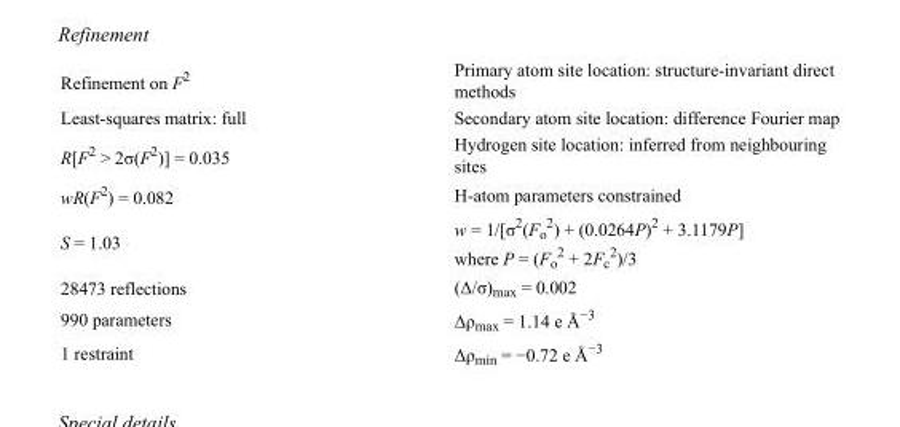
<table><tbody><tr><td>Refinement on F<sup>2</sup></td><td>Primary atom site location: structure-invariant direct methods</td></tr><tr><td>Least-squares matrix: full</td><td>Secondary atom site location: difference Fourier map</td></tr><tr><td>R[F<sup>2</sup> &gt; 2σ(F<sup>2</sup>)] = 0.035</td><td>Hydrogen site location: inferred from neighbouring sites</td></tr><tr><td>wR(F<sup>2</sup>) = 0.082</td><td>H-atom parameters constrained</td></tr><tr><td>S = 1.03</td><td>w = 1/[σ<sup>2</sup>(F<sub>o</sub> <sup>2</sup>) + (0.0264P)<sup>2</sup> + 3.1179P] where P = (F<sub>o</sub> <sup>2</sup> + 2F<sub>c</sub> <sup>2</sup>)/3</td></tr><tr><td>28473 reflections</td><td>(Δ/σ)<sub>max</sub> = 0.002</td></tr><tr><td>990 parameters</td><td>Δρ<sub>max</sub> = 1.14 e Å<sup>−3</sup></td></tr><tr><td>1 restraint</td><td>Δρ<sub>min</sub> = −0.72 e Å<sup>−3</sup></td></tr></tbody></table>